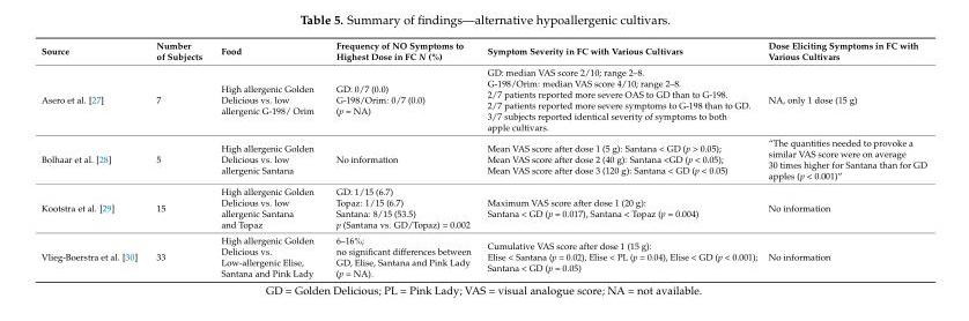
<table><thead><tr><td>Source</td><td>Number of Subjects</td><td>Food</td><td>Frequency of NO Symptoms to Highest Dose in FC N (%)</td><td>Symptom Severity in FC with Various Cultivars</td><td>Dose Eliciting Symptoms in FC with Various Cultivars</td></tr></thead><tbody><tr><td>Asero et al. [27]</td><td>7</td><td>High allergenic Golden Delicious vs. low allergenic G-198/ Orim</td><td>GD: 0/7 (0.0) G-198/Orim: 0/7 (0.0) (p = NA)</td><td>GD: median VAS score 2/10; range 2–8. G-198/Orim: median VAS score 4/10; range 2–8. 2/7 patients reported more severe OAS to GD than to G-198. 2/7 patients reported more severe symptoms to G-198 than to GD. 3/7 subjects reported identical severity of symptoms to both apple cultivars.</td><td>NA, only 1 dose (15 g)</td></tr><tr><td>Bolhaar et al. [28]</td><td>5</td><td>High allergenic Golden Delicious vs. low allergenic Santana</td><td>No information</td><td>Mean VAS score after dose 1 (5 g): Santana &lt; GD (p &gt; 0.05); Mean VAS score after dose 2 (40 g): Santana &lt;GD (p &lt; 0.05); Mean VAS score after dose 3 (120 g): Santana &lt; GD (p &lt; 0.05)</td><td>“The quantities needed to provoke a similar VAS score were on average 30 times higher for Santana than for GD apples (p &lt; 0.001)”</td></tr><tr><td>Kootstra et al. [29]</td><td>15</td><td>High allergenic Golden Delicious vs. low allergenic Santana and Topaz</td><td>GD: 1/15 (6.7) Topaz: 1/15 (6.7) Santana: 8/15 (53.5) p (Santana vs. GD/Topaz) = 0.002</td><td>Maximum VAS score after dose 1 (20 g): Santana &lt; GD (p = 0.017), Santana &lt; Topaz (p = 0.004)</td><td>No information</td></tr><tr><td>Vlieg-Boerstra et al. [30]</td><td>33</td><td>High allergenic Golden Delicious vs. Low-allergenic Elise, Santana and Pink Lady</td><td>6–16%; no significant differences between GD, Elise, Santana and Pink Lady (p = NA).</td><td>Cumulative VAS score after dose 1 (15 g): Elise &lt; Santana (p = 0.02), Elise &lt; PL (p = 0.04), Elise &lt; GD (p &lt; 0.001); Santana &lt; GD (p = 0.05)</td><td>No information</td></tr></tbody></table>